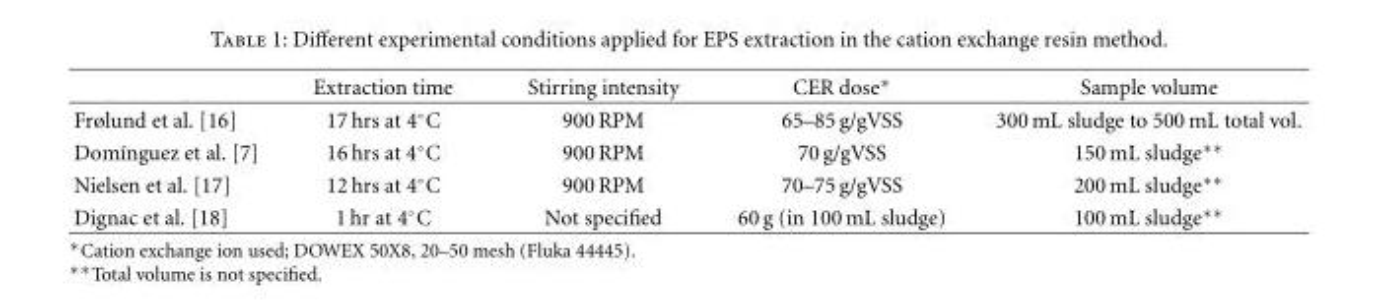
<table><thead><tr><td></td><td>Extraction time</td><td>Stirring intensity</td><td>CER dose∗</td><td>Sample volume</td></tr></thead><tbody><tr><td>Frølund et al. [16]</td><td>17 hrs at 4◦C</td><td>900 RPM</td><td>65–85 g/gVSS</td><td>300 mL sludge to 500 mL total vol.</td></tr><tr><td>Dom´ınguez et al. [7]</td><td>16 hrs at 4◦C</td><td>900 RPM</td><td>70 g/gVSS</td><td>150 mL sludge∗∗</td></tr><tr><td>Nielsen et al. [17]</td><td>12 hrs at 4◦C</td><td>900 RPM</td><td>70–75 g/gVSS</td><td>200 mL sludge∗∗</td></tr><tr><td>Dignac et al. [18]</td><td>1 hr at 4◦C</td><td>Not specified</td><td>60 g (in 100 mL sludge)</td><td>100 mL sludge∗∗</td></tr></tbody></table>